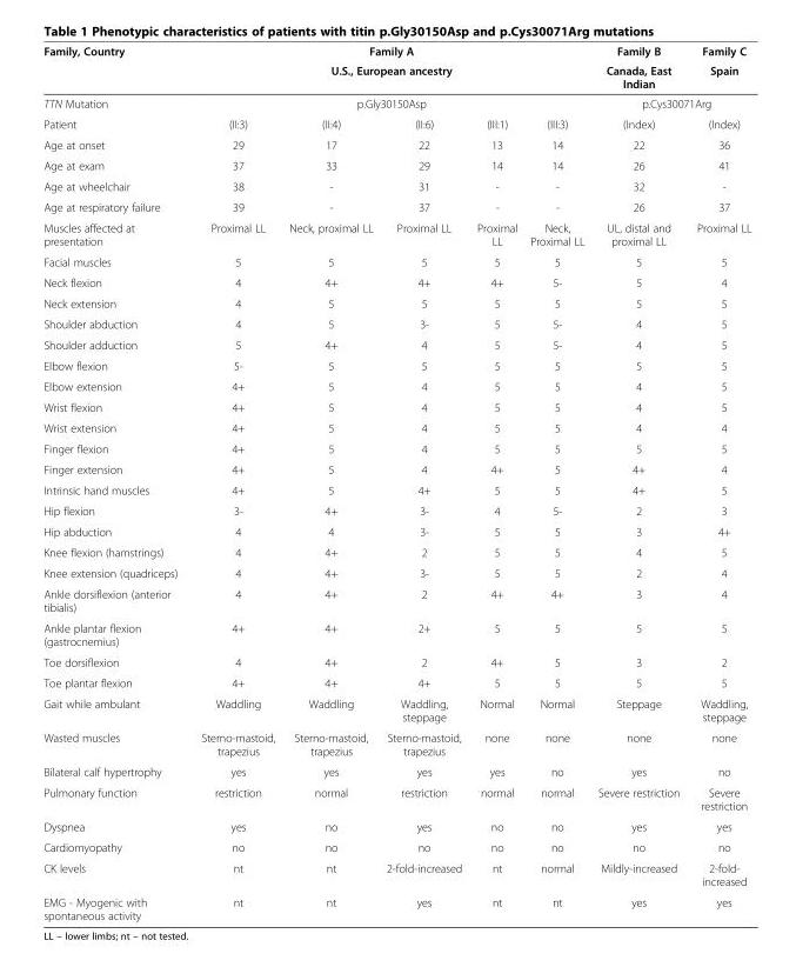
<table><thead><tr><td rowspan="4">Family, Country TTN Mutation Patient</td><td rowspan="3" colspan="5">Family A U.S., European ancestry p.Gly30150Asp</td><td rowspan="2">Family B Canada, East Indian</td><td rowspan="2">Family C Spain</td></tr><tr></tr><tr><td colspan="2">p.Cys30071Arg</td></tr><tr><td>(II:3)</td><td>(II:4)</td><td>(II:6)</td><td>(III:1)</td><td>(III:3)</td><td>(Index)</td><td>(Index)</td></tr></thead><tbody><tr><td>Age at onset</td><td>29</td><td>17</td><td>22</td><td>13</td><td>14</td><td>22</td><td>36</td></tr><tr><td>Age at exam</td><td>37</td><td>33</td><td>29</td><td>14</td><td>14</td><td>26</td><td>41</td></tr><tr><td>Age at wheelchair</td><td>38</td><td>-</td><td>31</td><td>-</td><td>-</td><td>32</td><td>-</td></tr><tr><td>Age at respiratory failure</td><td>39</td><td>-</td><td>37</td><td>-</td><td>-</td><td>26</td><td>37</td></tr><tr><td>Muscles affected at presentation</td><td>Proximal LL</td><td>Neck, proximal LL</td><td>Proximal LL</td><td>Proximal LL</td><td>Neck, Proximal LL</td><td>UL, distal and proximal LL</td><td>Proximal LL</td></tr><tr><td>Facial muscles</td><td>5</td><td>5</td><td>5</td><td>5</td><td>5</td><td>5</td><td>5</td></tr><tr><td>Neck flexion</td><td>4</td><td>4+</td><td>4+</td><td>4+</td><td>5-</td><td>5</td><td>4</td></tr><tr><td>Neck extension</td><td>4</td><td>5</td><td>5</td><td>5</td><td>5</td><td>5</td><td>5</td></tr><tr><td>Shoulder abduction</td><td>4</td><td>5</td><td>3-</td><td>5</td><td>5-</td><td>4</td><td>5</td></tr><tr><td>Shoulder adduction</td><td>5</td><td>4+</td><td>4</td><td>5</td><td>5-</td><td>4</td><td>5</td></tr><tr><td>Elbow flexion</td><td>5-</td><td>5</td><td>5</td><td>5</td><td>5</td><td>5</td><td>5</td></tr><tr><td>Elbow extension</td><td>4+</td><td>5</td><td>4</td><td>5</td><td>5</td><td>4</td><td>5</td></tr><tr><td>Wrist flexion</td><td>4+</td><td>5</td><td>4</td><td>5</td><td>5</td><td>4</td><td>5</td></tr><tr><td>Wrist extension</td><td>4+</td><td>5</td><td>4</td><td>5</td><td>5</td><td>4</td><td>4</td></tr><tr><td>Finger flexion</td><td>4+</td><td>5</td><td>4</td><td>5</td><td>5</td><td>5</td><td>5</td></tr><tr><td>Finger extension</td><td>4+</td><td>5</td><td>4</td><td>4+</td><td>5</td><td>4+</td><td>4</td></tr><tr><td>Intrinsic hand muscles</td><td>4+</td><td>5</td><td>4+</td><td>5</td><td>5</td><td>4+</td><td>5</td></tr><tr><td>Hip flexion</td><td>3-</td><td>4+</td><td>3-</td><td>4</td><td>5-</td><td>2</td><td>3</td></tr><tr><td>Hip abduction</td><td>4</td><td>4</td><td>3-</td><td>5</td><td>5</td><td>3</td><td>4+</td></tr><tr><td>Knee flexion (hamstrings)</td><td>4</td><td>4+</td><td>2</td><td>5</td><td>5</td><td>4</td><td>5</td></tr><tr><td>Knee extension (quadriceps)</td><td>4</td><td>4+</td><td>3-</td><td>5</td><td>5</td><td>2</td><td>4</td></tr><tr><td>Ankle dorsiflexion (anterior tibialis)</td><td>4</td><td>4+</td><td>2</td><td>4+</td><td>4+</td><td>3</td><td>4</td></tr><tr><td>Ankle plantar flexion (gastrocnemius)</td><td>4+</td><td>4+</td><td>2+</td><td>5</td><td>5</td><td>5</td><td>5</td></tr><tr><td>Toe dorsiflexion</td><td>4</td><td>4+</td><td>2</td><td>4+</td><td>5</td><td>3</td><td>2</td></tr><tr><td>Toe plantar flexion</td><td>4+</td><td>4+</td><td>4+</td><td>5</td><td>5</td><td>5</td><td>5</td></tr><tr><td>Gait while ambulant</td><td>Waddling</td><td>Waddling</td><td>Waddling, steppage</td><td>Normal</td><td>Normal</td><td>Steppage</td><td>Waddling, steppage</td></tr><tr><td>Wasted muscles</td><td>Sterno-mastoid, trapezius</td><td>Sterno-mastoid, trapezius</td><td>Sterno-mastoid, trapezius</td><td>none</td><td>none</td><td>none</td><td>none</td></tr><tr><td>Bilateral calf hypertrophy</td><td>yes</td><td>yes</td><td>yes</td><td>yes</td><td>no</td><td>yes</td><td>no</td></tr><tr><td>Pulmonary function</td><td>restriction</td><td>normal</td><td>restriction</td><td>normal</td><td>normal</td><td>Severe restriction</td><td>Severe restriction</td></tr><tr><td>Dyspnea</td><td>yes</td><td>no</td><td>yes</td><td>no</td><td>no</td><td>yes</td><td>yes</td></tr><tr><td>Cardiomyopathy</td><td>no</td><td>no</td><td>no</td><td>no</td><td>no</td><td>no</td><td>no</td></tr><tr><td>CK levels</td><td>nt</td><td>nt</td><td>2-fold-increased</td><td>nt</td><td>normal</td><td>Mildly-increased</td><td>2-fold- increased</td></tr><tr><td>EMG - Myogenic with spontaneous activity</td><td>nt</td><td>nt</td><td>yes</td><td>nt</td><td>nt</td><td>yes</td><td>yes</td></tr></tbody></table>